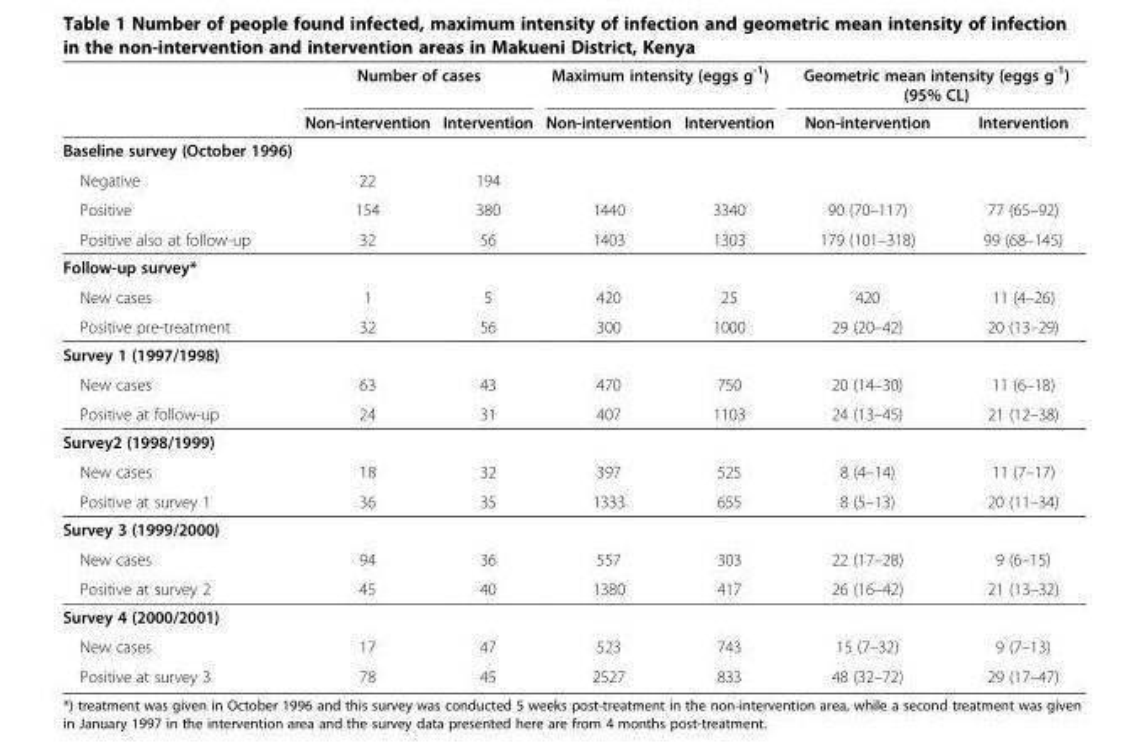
<table><thead><tr><td rowspan="2"></td><td colspan="2">Number of cases</td><td colspan="2">Maximum intensity (eggs g<sup>-1</sup>)</td><td colspan="2">Geometric mean intensity (eggs g<sup>-1</sup>) (95% CL)</td></tr><tr><td>Non-intervention</td><td>Intervention</td><td>Non-intervention</td><td>Intervention</td><td>Non-intervention</td><td>Intervention</td></tr></thead><tbody><tr><td colspan="7">Baseline survey (October 1996)</td></tr><tr><td>Negative</td><td>22</td><td>194</td><td></td><td></td><td></td><td></td></tr><tr><td>Positive</td><td>154</td><td>380</td><td>1440</td><td>3340</td><td>90 (70–117)</td><td>77 (65–92)</td></tr><tr><td>Positive also at follow-up</td><td>32</td><td>56</td><td>1403</td><td>1303</td><td>179 (101–318)</td><td>99 (68–145)</td></tr><tr><td colspan="7">Follow-up survey*</td></tr><tr><td>New cases</td><td>1</td><td>5</td><td>420</td><td>25</td><td>420</td><td>11 (4–26)</td></tr><tr><td>Positive pre-treatment</td><td>32</td><td>56</td><td>300</td><td>1000</td><td>29 (20–42)</td><td>20 (13–29)</td></tr><tr><td colspan="7">Survey 1 (1997/1998)</td></tr><tr><td>New cases</td><td>63</td><td>43</td><td>470</td><td>750</td><td>20 (14–30)</td><td>11 (6–18)</td></tr><tr><td>Positive at follow-up</td><td>24</td><td>31</td><td>407</td><td>1103</td><td>24 (13–45)</td><td>21 (12–38)</td></tr><tr><td colspan="7">Survey2 (1998/1999)</td></tr><tr><td>New cases</td><td>18</td><td>32</td><td>397</td><td>525</td><td>8 (4–14)</td><td>11 (7–17)</td></tr><tr><td>Positive at survey 1</td><td>36</td><td>35</td><td>1333</td><td>655</td><td>8 (5–13)</td><td>20 (11–34)</td></tr><tr><td colspan="7">Survey 3 (1999/2000)</td></tr><tr><td>New cases</td><td>94</td><td>36</td><td>557</td><td>303</td><td>22 (17–28)</td><td>9 (6–15)</td></tr><tr><td>Positive at survey 2</td><td>45</td><td>40</td><td>1380</td><td>417</td><td>26 (16–42)</td><td>21 (13–32)</td></tr><tr><td colspan="7">Survey 4 (2000/2001)</td></tr><tr><td>New cases</td><td>17</td><td>47</td><td>523</td><td>743</td><td>15 (7–32)</td><td>9 (7–13)</td></tr><tr><td>Positive at survey 3</td><td>78</td><td>45</td><td>2527</td><td>833</td><td>48 (32–72)</td><td>29 (17–47)</td></tr></tbody></table>